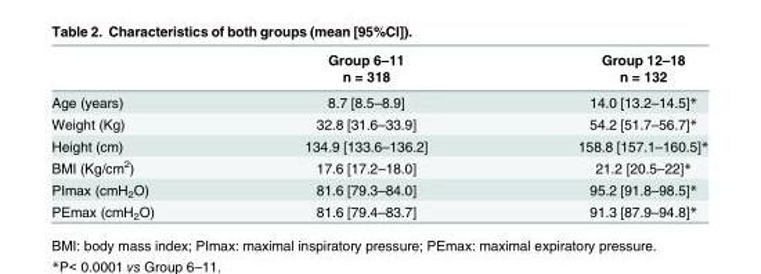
<table><thead><tr><td rowspan="2"></td><td rowspan="2">Group 6–11 n = 318</td><td rowspan="2">Group 12–18 n = 132</td></tr><tr></tr></thead><tbody><tr><td>Age (years)</td><td>8.7 [8.5–8.9]</td><td>14.0 [13.2–14.5]*</td></tr><tr><td>Weight (Kg)</td><td>32.8 [31.6–33.9]</td><td>54.2 [51.7–56.7]*</td></tr><tr><td>Height (cm)</td><td>134.9 [133.6–136.2]</td><td>158.8 [157.1–160.5]*</td></tr><tr><td>BMI (Kg/cm<sup>2</sup>)</td><td>17.6 [17.2–18.0]</td><td>21.2 [20.5–22]*</td></tr><tr><td>PImax (cmH<sub>2</sub>O)</td><td>81.6 [79.3–84.0]</td><td>95.2 [91.8–98.5]*</td></tr><tr><td>PEmax (cmH<sub>2</sub>O)</td><td>81.6 [79.4–83.7]</td><td>91.3 [87.9–94.8]*</td></tr></tbody></table>